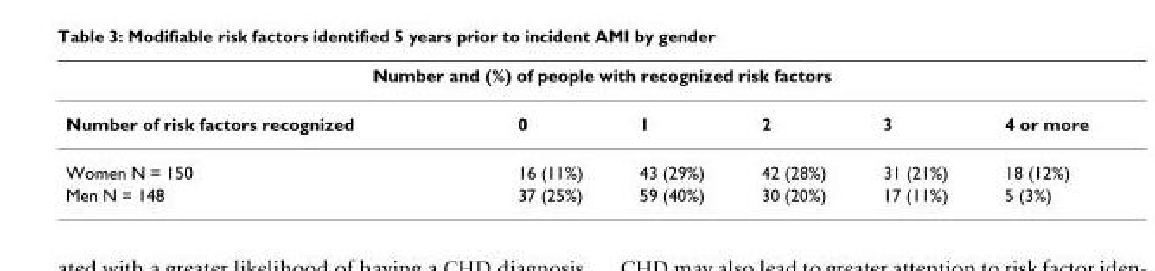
<table><thead><tr><td colspan="6">Number and (%) of people with recognized risk factors</td></tr><tr><td>Number of risk factors recognized</td><td>0</td><td>1</td><td>2</td><td>3</td><td>4 or more</td></tr></thead><tbody><tr><td>Women N = 150</td><td>16 (11%)</td><td>43 (29%)</td><td>42 (28%)</td><td>31 (21%)</td><td>18 (12%)</td></tr><tr><td>Men N = 148</td><td>37 (25%)</td><td>59 (40%)</td><td>30 (20%)</td><td>17 (11%)</td><td>5 (3%)</td></tr></tbody></table>